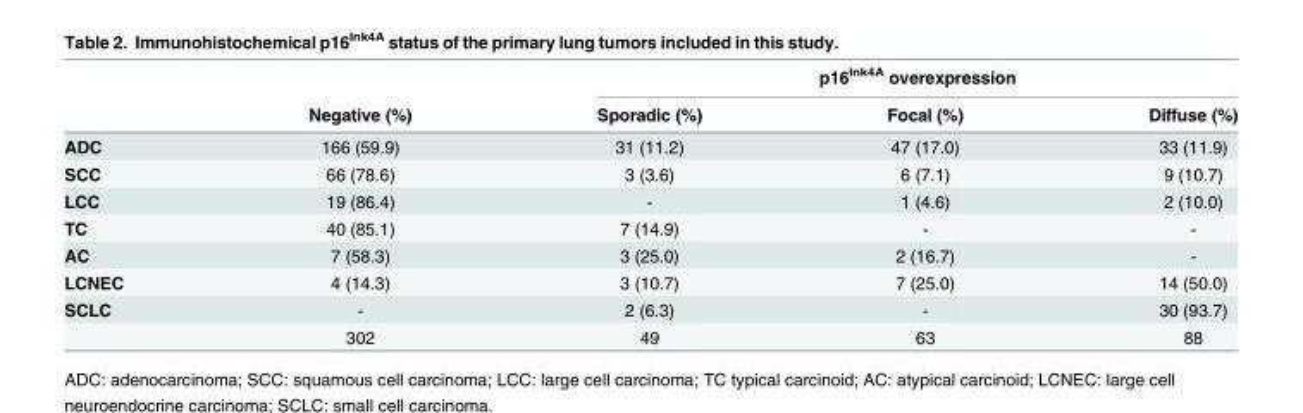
<table><thead><tr><td rowspan="2"></td><td rowspan="2">Negative (%)</td><td colspan="3">p16<sup>Ink4A</sup> overexpression</td></tr><tr><td>Sporadic (%)</td><td>Focal (%)</td><td>Diffuse (%)</td></tr></thead><tbody><tr><td>ADC</td><td>166 (59.9)</td><td>31 (11.2)</td><td>47 (17.0)</td><td>33 (11.9)</td></tr><tr><td>SCC</td><td>66 (78.6)</td><td>3 (3.6)</td><td>6 (7.1)</td><td>9 (10.7)</td></tr><tr><td>LCC</td><td>19 (86.4)</td><td>-</td><td>1 (4.6)</td><td>2 (10.0)</td></tr><tr><td>TC</td><td>40 (85.1)</td><td>7 (14.9)</td><td>-</td><td>-</td></tr><tr><td>AC</td><td>7 (58.3)</td><td>3 (25.0)</td><td>2 (16.7)</td><td>-</td></tr><tr><td>LCNEC</td><td>4 (14.3)</td><td>3 (10.7)</td><td>7 (25.0)</td><td>14 (50.0)</td></tr><tr><td rowspan="2">SCLC</td><td>-</td><td>2 (6.3)</td><td>-</td><td>30 (93.7)</td></tr><tr><td>302</td><td>49</td><td>63</td><td>88</td></tr></tbody></table>